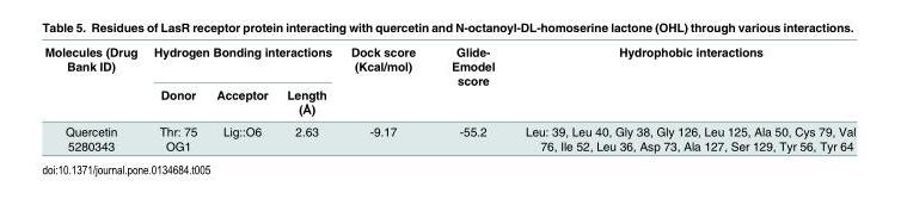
<table><thead><tr><td rowspan="2">Molecules (Drug Bank ID)</td><td colspan="3">Hydrogen Bonding interactions</td><td rowspan="2">Dock score (Kcal/mol)</td><td rowspan="2">Glide- Emodel score</td><td rowspan="2">Hydrophobic interactions</td></tr><tr><td>Donor</td><td>Acceptor</td><td>Length (Å)</td></tr></thead><tbody><tr><td>Quercetin 5280343</td><td>Thr: 75 OG1</td><td>Lig::O6</td><td>2.63</td><td>-9.17</td><td>-55.2</td><td>Leu: 39, Leu 40, Gly 38, Gly 126, Leu 125, Ala 50, Cys 79, Val 76, Ile 52, Leu 36, Asp 73, Ala 127, Ser 129, Tyr 56, Tyr 64</td></tr></tbody></table>